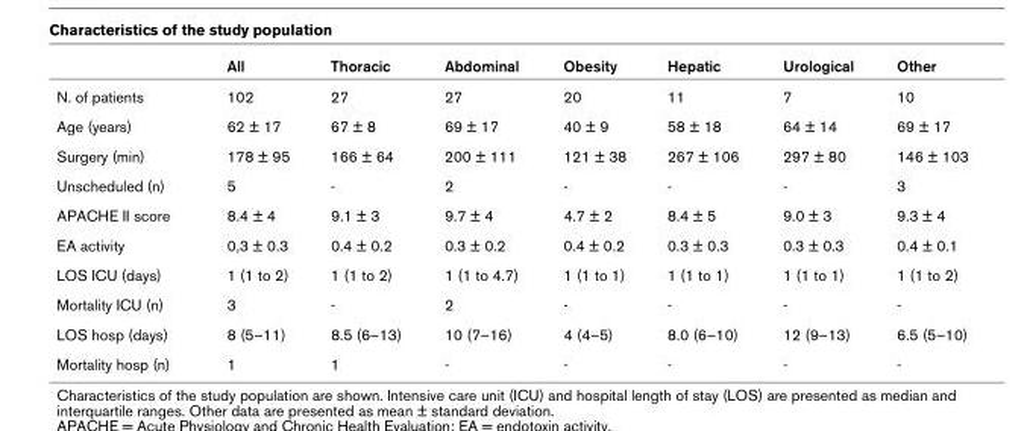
<table><thead><tr><td></td><td>All</td><td>Thoracic</td><td>Abdominal</td><td>Obesity</td><td>Hepatic</td><td>Urological</td><td>Other</td></tr></thead><tbody><tr><td>N. of patients</td><td>102</td><td>27</td><td>27</td><td>20</td><td>11</td><td>7</td><td>10</td></tr><tr><td>Age (years)</td><td>62 ± 17</td><td>67 ± 8</td><td>69 ± 17</td><td>40 ± 9</td><td>58 ± 18</td><td>64 ± 14</td><td>69 ± 17</td></tr><tr><td>Surgery (min)</td><td>178 ± 95</td><td>166 ± 64</td><td>200 ± 111</td><td>121 ± 38</td><td>267 ± 106</td><td>297 ± 80</td><td>146 ± 103</td></tr><tr><td>Unscheduled (n)</td><td>5</td><td>-</td><td>2</td><td>-</td><td>-</td><td>-</td><td>3</td></tr><tr><td>APACHE II score</td><td>8.4 ± 4</td><td>9.1 ± 3</td><td>9.7 ± 4</td><td>4.7 ± 2</td><td>8.4 ± 5</td><td>9.0 ± 3</td><td>9.3 ± 4</td></tr><tr><td>EA activity</td><td>0,3 ± 0.3</td><td>0.4 ± 0.2</td><td>0.3 ± 0.2</td><td>0.4 ± 0.2</td><td>0.3 ± 0.3</td><td>0.3 ± 0.3</td><td>0.4 ± 0.1</td></tr><tr><td>LOS ICU (days)</td><td>1 (1 to 2)</td><td>1 (1 to 2)</td><td>1 (1 to 4.7)</td><td>1 (1 to 1)</td><td>1 (1 to 1)</td><td>1 (1 to 1)</td><td>1 (1 to 2)</td></tr><tr><td>Mortality ICU (n)</td><td>3</td><td>-</td><td>2</td><td>-</td><td>-</td><td>-</td><td>-</td></tr><tr><td>LOS hosp (days)</td><td>8 (5–11)</td><td>8.5 (6–13)</td><td>10 (7–16)</td><td>4 (4–5)</td><td>8.0 (6–10)</td><td>12 (9–13)</td><td>6.5 (5–10)</td></tr><tr><td>Mortality hosp (n)</td><td>1</td><td>1</td><td>-</td><td>-</td><td>-</td><td>-</td><td>-</td></tr></tbody></table>